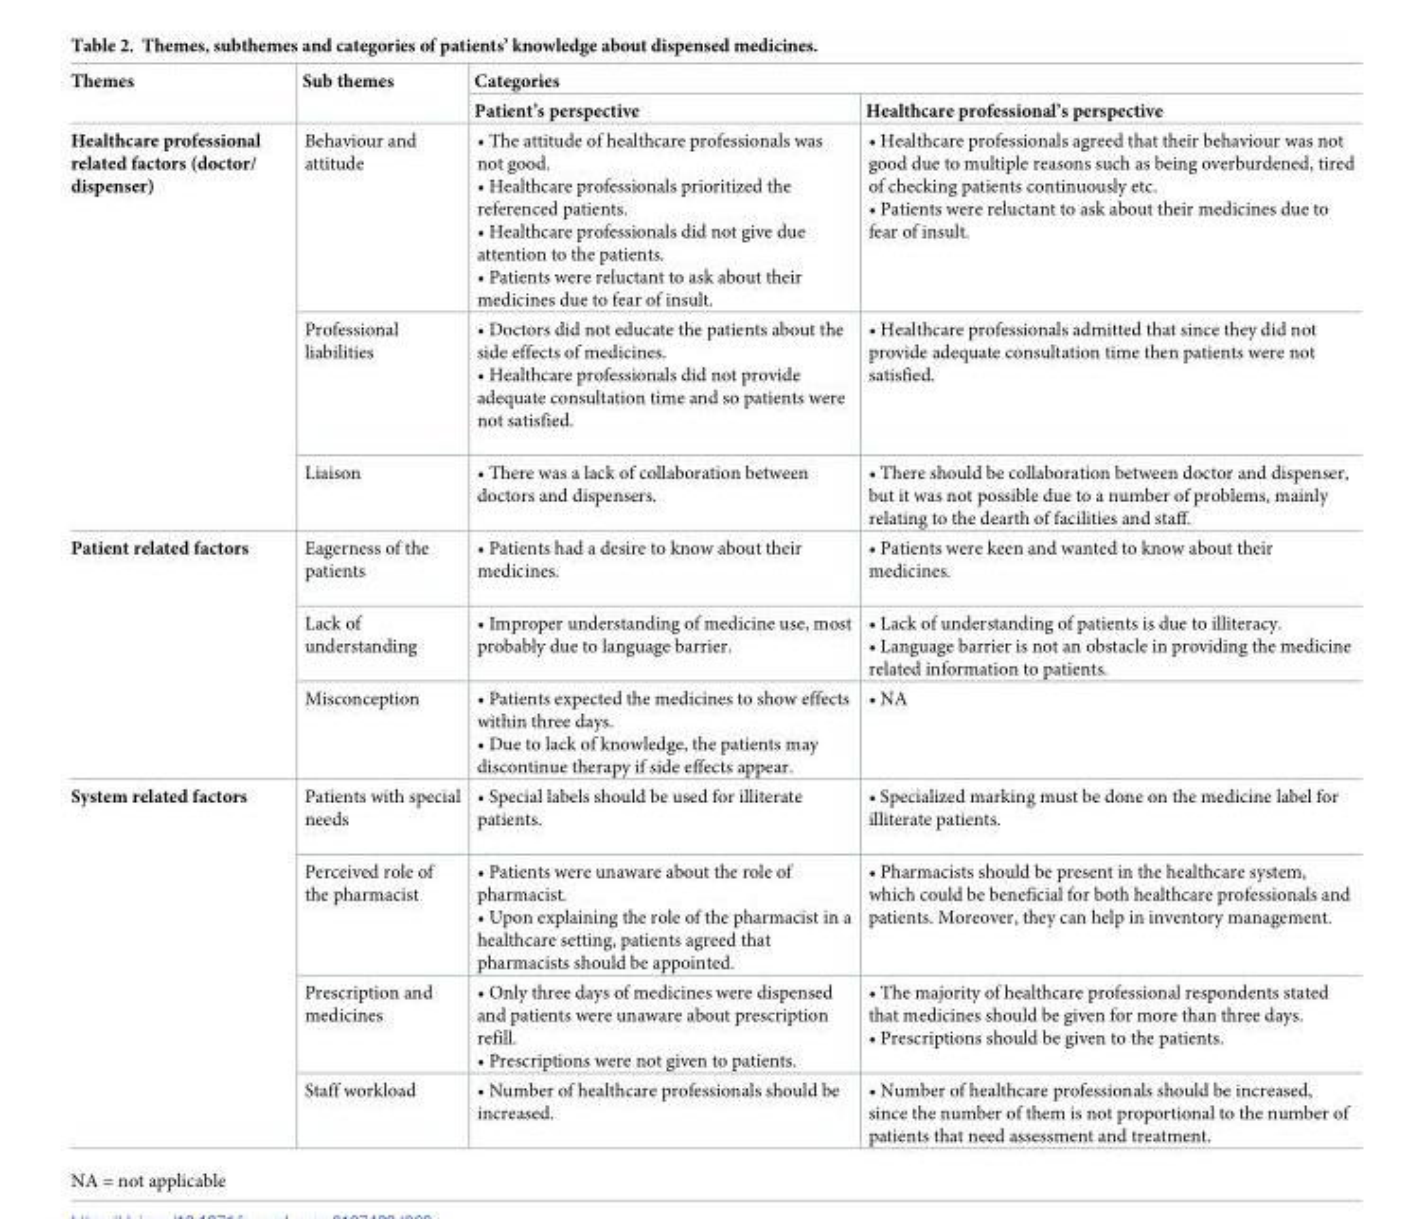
<table><thead><tr><td rowspan="2">Themes</td><td rowspan="2">Sub themes</td><td colspan="2">Categories</td></tr><tr><td>Patient’s perspective</td><td>Healthcare professional’s perspective</td></tr></thead><tbody><tr><td rowspan="3">Healthcare professional related factors (doctor/ dispenser)</td><td>Behaviour and attitude</td><td>• The attitude of healthcare professionals was not good. • Healthcare professionals prioritized the referenced patients. • Healthcare professionals did not give due attention to the patients. • Patients were reluctant to ask about their medicines due to fear of insult.</td><td>• Healthcare professionals agreed that their behaviour was not good due to multiple reasons such as being overburdened, tired of checking patients continuously etc. • Patients were reluctant to ask about their medicines due to fear of insult.</td></tr><tr><td>Professional liabilities</td><td>• Doctors did not educate the patients about the side effects of medicines. • Healthcare professionals did not provide adequate consultation time and so patients were not satisfied.</td><td>• Healthcare professionals admitted that since they did not provide adequate consultation time then patients were not satisfied.</td></tr><tr><td>Liaison</td><td>• There was a lack of collaboration between doctors and dispensers.</td><td>• There should be collaboration between doctor and dispenser, but it was not possible due to a number of problems, mainly relating to the dearth of facilities and staff.</td></tr><tr><td rowspan="3">Patient related factors</td><td>Eagerness of the patients</td><td>• Patients had a desire to know about their medicines.</td><td>• Patients were keen and wanted to know about their medicines.</td></tr><tr><td>Lack of understanding</td><td>• Improper understanding of medicine use, most probably due to language barrier.</td><td>• Lack of understanding of patients is due to illiteracy. • Language barrier is not an obstacle in providing the medicine related information to patients.</td></tr><tr><td>Misconception</td><td>• Patients expected the medicines to show effects within three days. • Due to lack of knowledge, the patients may discontinue therapy if side effects appear.</td><td>• NA</td></tr><tr><td rowspan="4">System related factors</td><td>Patients with special needs</td><td>• Special labels should be used for illiterate patients.</td><td>• Specialized marking must be done on the medicine label for illiterate patients.</td></tr><tr><td>Perceived role of the pharmacist</td><td>• Patients were unaware about the role of pharmacist. • Upon explaining the role of the pharmacist in a healthcare setting, patients agreed that pharmacists should be appointed.</td><td>• Pharmacists should be present in the healthcare system, which could be beneficial for both healthcare professionals and patients. Moreover, they can help in inventory management.</td></tr><tr><td>Prescription and medicines</td><td>• Only three days of medicines were dispensed and patients were unaware about prescription refill. • Prescriptions were not given to patients.</td><td>• The majority of healthcare professional respondents stated that medicines should be given for more than three days. • Prescriptions should be given to the patients.</td></tr><tr><td>Staff workload</td><td>• Number of healthcare professionals should be increased.</td><td>• Number of healthcare professionals should be increased, since the number of them is not proportional to the number of patients that need assessment and treatment.</td></tr></tbody></table>